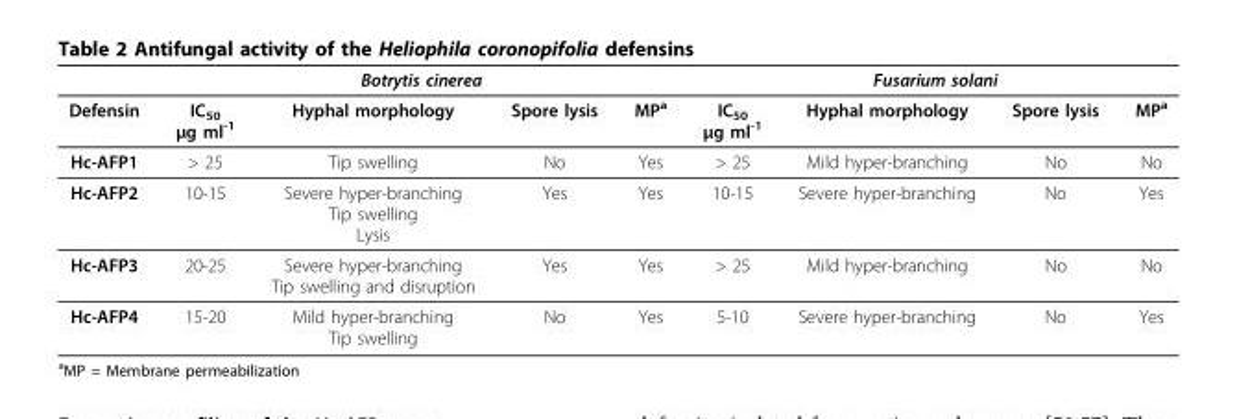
<table><thead><tr><td rowspan="2">Defensin</td><td colspan="4">Botrytis cinerea</td><td colspan="4">Fusarium solani</td></tr><tr><td>IC<sub>50</sub> μg ml<sup>-1</sup></td><td>Hyphal morphology</td><td>Spore lysis</td><td>MP<sup>a</sup></td><td>IC<sub>50</sub> μg ml<sup>-1</sup></td><td>Hyphal morphology</td><td>Spore lysis</td><td>MP<sup>a</sup></td></tr></thead><tbody><tr><td>Hc-AFP1</td><td>&gt; 25</td><td>Tip swelling</td><td>No</td><td>Yes</td><td>&gt; 25</td><td>Mild hyper-branching</td><td>No</td><td>No</td></tr><tr><td>Hc-AFP2</td><td>10-15</td><td>Severe hyper-branching Tip swelling Lysis</td><td>Yes</td><td>Yes</td><td>10-15</td><td>Severe hyper-branching</td><td>No</td><td>Yes</td></tr><tr><td>Hc-AFP3</td><td>20-25</td><td>Severe hyper-branching Tip swelling and disruption</td><td>Yes</td><td>Yes</td><td>&gt; 25</td><td>Mild hyper-branching</td><td>No</td><td>No</td></tr><tr><td>Hc-AFP4</td><td>15-20</td><td>Mild hyper-branching Tip swelling</td><td>No</td><td>Yes</td><td>5-10</td><td>Severe hyper-branching</td><td>No</td><td>Yes</td></tr></tbody></table>